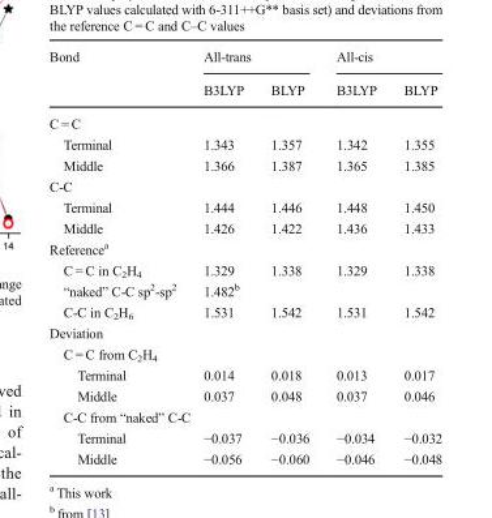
<table><thead><tr><td rowspan="2">Bond</td><td colspan="2">All-trans</td><td colspan="2">All-cis</td></tr><tr><td>B3LYP</td><td>BLYP</td><td>B3LYP</td><td>BLYP</td></tr></thead><tbody><tr><td colspan="5">C = C</td></tr><tr><td>Terminal</td><td>1.343</td><td>1.357</td><td>1.342</td><td>1.355</td></tr><tr><td>Middle</td><td>1.366</td><td>1.387</td><td>1.365</td><td>1.385</td></tr><tr><td colspan="5">C-C</td></tr><tr><td>Terminal</td><td>1.444</td><td>1.446</td><td>1.448</td><td>1.450</td></tr><tr><td>Middle</td><td>1.426</td><td>1.422</td><td>1.436</td><td>1.433</td></tr><tr><td colspan="5">Reference<sup>a</sup></td></tr><tr><td>C = C in C<sub>2</sub>H<sub>4</sub></td><td>1.329</td><td>1.338</td><td>1.329</td><td>1.338</td></tr><tr><td>“naked” C-C sp<sup>2</sup>-sp<sup>2</sup></td><td colspan="4">1.482<sup>b</sup></td></tr><tr><td>C-C in C<sub>2</sub>H<sub>6</sub></td><td>1.531</td><td>1.542</td><td>1.531</td><td>1.542</td></tr><tr><td colspan="5">Deviation</td></tr><tr><td colspan="5">C = C from C<sub>2</sub>H<sub>4</sub></td></tr><tr><td>Terminal</td><td>0.014</td><td>0.018</td><td>0.013</td><td>0.017</td></tr><tr><td>Middle</td><td>0.037</td><td>0.048</td><td>0.037</td><td>0.046</td></tr><tr><td colspan="5">C-C from “naked” C-C</td></tr><tr><td>Terminal</td><td>−0.037</td><td>−0.036</td><td>−0.034</td><td>−0.032</td></tr><tr><td>Middle</td><td>−0.056</td><td>−0.060</td><td>−0.046</td><td>−0.048</td></tr></tbody></table>